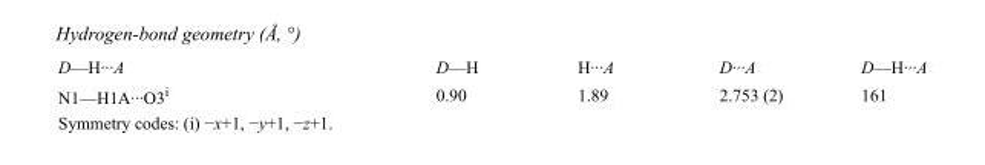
<table><tbody><tr><td>D—H···A</td><td>D—H</td><td>H···A</td><td>D···A</td><td>D—H···A</td></tr><tr><td>N1—H1A···O3<sup>i</sup></td><td>0.90</td><td>1.89</td><td>2.753 (2)</td><td>161</td></tr></tbody></table>